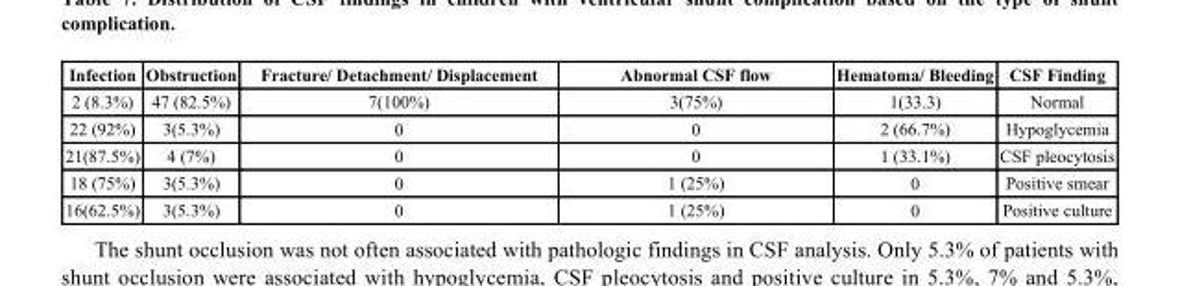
<table><thead><tr><td>Infection</td><td>Obstruction</td><td>Fracture/ Detachment/ Displacement</td><td>Abnormal CSF flow</td><td>Hematoma/ Bleeding</td><td>CSF Finding</td></tr></thead><tbody><tr><td>2 (8.3%)</td><td>47 (82.5%)</td><td>7(100%)</td><td>3(75%)</td><td>1(33.3)</td><td>Normal</td></tr><tr><td>22 (92%)</td><td>3(5.3%)</td><td>0</td><td>0</td><td>2 (66.7%)</td><td>Hypoglycemia</td></tr><tr><td>21(87.5%)</td><td>4 (7%)</td><td>0</td><td>0</td><td>1 (33.1%)</td><td>CSF pleocytosis</td></tr><tr><td>18 (75%)</td><td>3(5.3%)</td><td>0</td><td>1 (25%)</td><td>0</td><td>Positive smear</td></tr><tr><td>16(62.5%)</td><td>3(5.3%)</td><td>0</td><td>1 (25%)</td><td>0</td><td>Positive culture</td></tr></tbody></table>